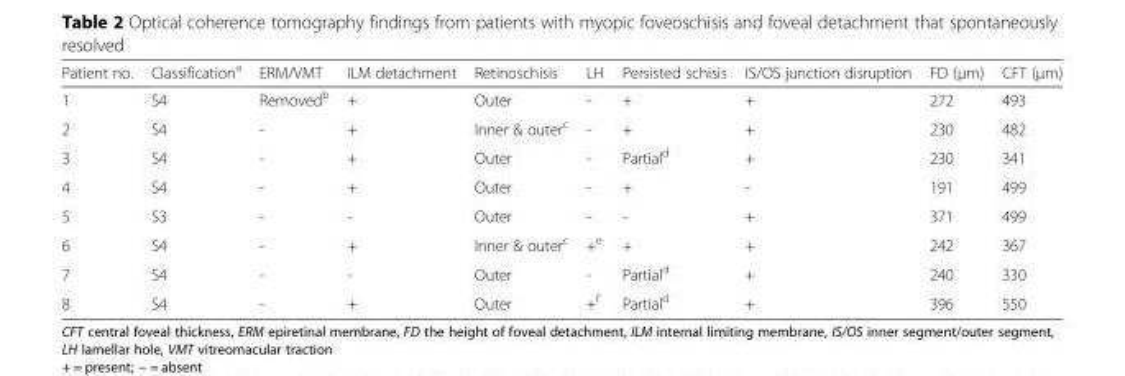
<table><thead><tr><td>Patient no.</td><td>Classification<sup>a</sup></td><td>ERM/VMT</td><td>ILM detachment</td><td>Retinoschisis</td><td>LH</td><td>Persisted schisis</td><td>IS/OS junction disruption</td><td>FD (μm)</td><td>CFT (μm)</td></tr></thead><tbody><tr><td>1</td><td>S4</td><td>Removed<sup>b</sup></td><td>+</td><td>Outer</td><td>-</td><td>+</td><td>+</td><td>272</td><td>493</td></tr><tr><td>2</td><td>S4</td><td>-</td><td>+</td><td>Inner &amp; outer<sup>c</sup></td><td>-</td><td>+</td><td>+</td><td>230</td><td>482</td></tr><tr><td>3</td><td>S4</td><td>-</td><td>+</td><td>Outer</td><td>-</td><td>Partial<sup>d</sup></td><td>+</td><td>230</td><td>341</td></tr><tr><td>4</td><td>S4</td><td>-</td><td>+</td><td>Outer</td><td>-</td><td>+</td><td>-</td><td>191</td><td>499</td></tr><tr><td>5</td><td>S3</td><td>-</td><td>-</td><td>Outer</td><td>-</td><td>-</td><td>+</td><td>371</td><td>499</td></tr><tr><td>6</td><td>S4</td><td>-</td><td>+</td><td>Inner &amp; outer<sup>c</sup></td><td>+<sup>e</sup></td><td>+</td><td>+</td><td>242</td><td>367</td></tr><tr><td>7</td><td>S4</td><td>-</td><td>-</td><td>Outer</td><td>-</td><td>Partial<sup>d</sup></td><td>+</td><td>240</td><td>330</td></tr><tr><td>8</td><td>S4</td><td>-</td><td>+</td><td>Outer</td><td>+<sup>f</sup></td><td>Partial<sup>d</sup></td><td>+</td><td>396</td><td>550</td></tr></tbody></table>